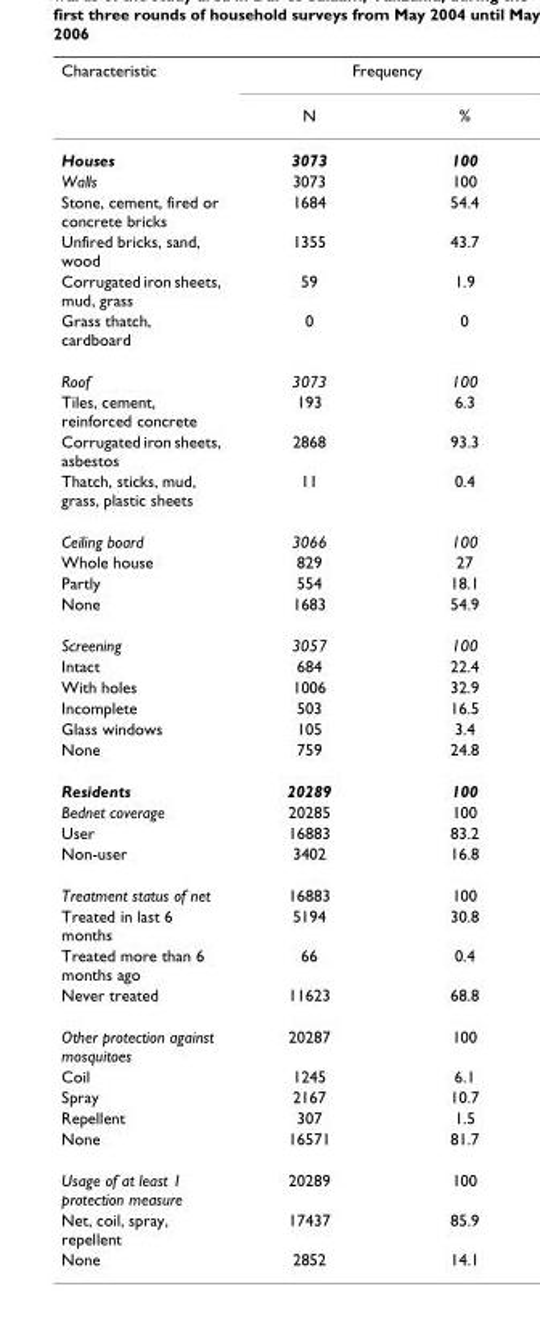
<table><thead><tr><td rowspan="2">Characteristic</td><td colspan="2">Frequency</td></tr><tr><td>N</td><td>%</td></tr></thead><tbody><tr><td>Houses</td><td>3073</td><td>100</td></tr><tr><td>Walls</td><td>3073</td><td>100</td></tr><tr><td>Stone, cement, fired or concrete bricks</td><td>1684</td><td>54.4</td></tr><tr><td>Unfired bricks, sand, wood</td><td>1355</td><td>43.7</td></tr><tr><td>Corrugated iron sheets, mud, grass</td><td>59</td><td>1.9</td></tr><tr><td>Grass thatch, cardboard</td><td>0</td><td>0</td></tr><tr><td>Roof</td><td>3073</td><td>100</td></tr><tr><td>Tiles, cement, reinforced concrete</td><td>193</td><td>6.3</td></tr><tr><td>Corrugated iron sheets, asbestos</td><td>2868</td><td>93.3</td></tr><tr><td>Thatch, sticks, mud, grass, plastic sheets</td><td>11</td><td>0.4</td></tr><tr><td>Ceiling board</td><td>3066</td><td>100</td></tr><tr><td>Whole house</td><td>829</td><td>27</td></tr><tr><td>Partly</td><td>554</td><td>18.1</td></tr><tr><td>None</td><td>1683</td><td>54.9</td></tr><tr><td>Screening</td><td>3057</td><td>100</td></tr><tr><td>Intact</td><td>684</td><td>22.4</td></tr><tr><td>With holes</td><td>1006</td><td>32.9</td></tr><tr><td>Incomplete</td><td>503</td><td>16.5</td></tr><tr><td>Glass windows</td><td>105</td><td>3.4</td></tr><tr><td>None</td><td>759</td><td>24.8</td></tr><tr><td>Residents</td><td>20289</td><td>100</td></tr><tr><td>Bednet coverage</td><td>20285</td><td>100</td></tr><tr><td>User</td><td>16883</td><td>83.2</td></tr><tr><td>Non-user</td><td>3402</td><td>16.8</td></tr><tr><td>Treatment status of net</td><td>16883</td><td>100</td></tr><tr><td>Treated in last 6 months</td><td>5194</td><td>30.8</td></tr><tr><td>Treated more than 6 months ago</td><td>66</td><td>0.4</td></tr><tr><td>Never treated</td><td>11623</td><td>68.8</td></tr><tr><td>Other protection against mosquitoes</td><td>20287</td><td>100</td></tr><tr><td>Coil</td><td>1245</td><td>6.1</td></tr><tr><td>Spray</td><td>2167</td><td>10.7</td></tr><tr><td>Repellent</td><td>307</td><td>1.5</td></tr><tr><td>None</td><td>16571</td><td>81.7</td></tr><tr><td>Usage of at least 1 protection measure</td><td>20289</td><td>100</td></tr><tr><td>Net, coil, spray, repellent</td><td>17437</td><td>85.9</td></tr><tr><td>None</td><td>2852</td><td>14.1</td></tr></tbody></table>